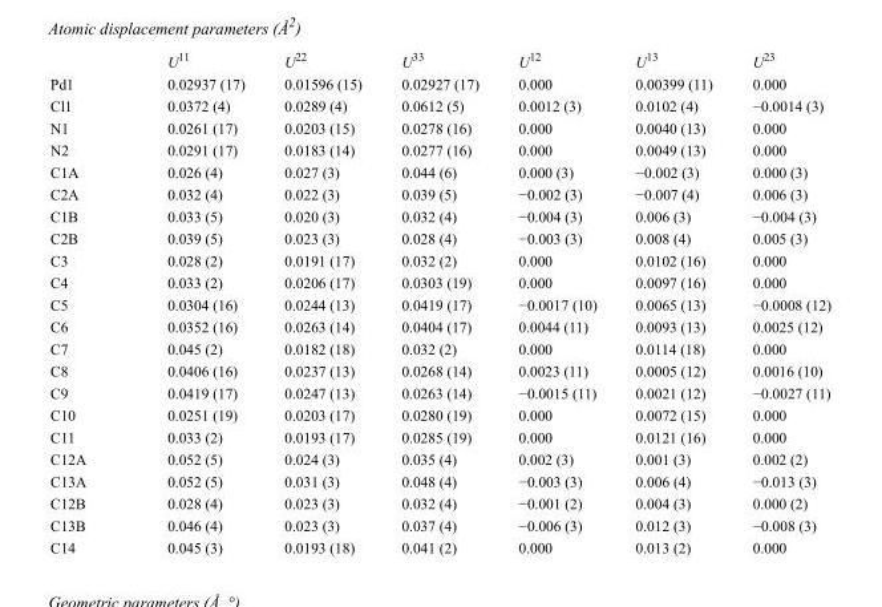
<table><thead><tr><td></td><td>U<sup>11</sup></td><td>U<sup>22</sup></td><td>U<sup>33</sup></td><td>U<sup>12</sup></td><td>U<sup>13</sup></td><td>U<sup>23</sup></td></tr></thead><tbody><tr><td>Pd1</td><td>0.02937 (17)</td><td>0.01596 (15)</td><td>0.02927 (17)</td><td>0.000</td><td>0.00399 (11)</td><td>0.000</td></tr><tr><td>Cl1</td><td>0.0372 (4)</td><td>0.0289 (4)</td><td>0.0612 (5)</td><td>0.0012 (3)</td><td>0.0102 (4)</td><td>−0.0014 (3)</td></tr><tr><td>N1</td><td>0.0261 (17)</td><td>0.0203 (15)</td><td>0.0278 (16)</td><td>0.000</td><td>0.0040 (13)</td><td>0.000</td></tr><tr><td>N2</td><td>0.0291 (17)</td><td>0.0183 (14)</td><td>0.0277 (16)</td><td>0.000</td><td>0.0049 (13)</td><td>0.000</td></tr><tr><td>C1A</td><td>0.026 (4)</td><td>0.027 (3)</td><td>0.044 (6)</td><td>0.000 (3)</td><td>−0.002 (3)</td><td>0.000 (3)</td></tr><tr><td>C2A</td><td>0.032 (4)</td><td>0.022 (3)</td><td>0.039 (5)</td><td>−0.002 (3)</td><td>−0.007 (4)</td><td>0.006 (3)</td></tr><tr><td>C1B</td><td>0.033 (5)</td><td>0.020 (3)</td><td>0.032 (4)</td><td>−0.004 (3)</td><td>0.006 (3)</td><td>−0.004 (3)</td></tr><tr><td>C2B</td><td>0.039 (5)</td><td>0.023 (3)</td><td>0.028 (4)</td><td>−0.003 (3)</td><td>0.008 (4)</td><td>0.005 (3)</td></tr><tr><td>C3</td><td>0.028 (2)</td><td>0.0191 (17)</td><td>0.032 (2)</td><td>0.000</td><td>0.0102 (16)</td><td>0.000</td></tr><tr><td>C4</td><td>0.033 (2)</td><td>0.0206 (17)</td><td>0.0303 (19)</td><td>0.000</td><td>0.0097 (16)</td><td>0.000</td></tr><tr><td>C5</td><td>0.0304 (16)</td><td>0.0244 (13)</td><td>0.0419 (17)</td><td>−0.0017 (10)</td><td>0.0065 (13)</td><td>−0.0008 (12)</td></tr><tr><td>C6</td><td>0.0352 (16)</td><td>0.0263 (14)</td><td>0.0404 (17)</td><td>0.0044 (11)</td><td>0.0093 (13)</td><td>0.0025 (12)</td></tr><tr><td>C7</td><td>0.045 (2)</td><td>0.0182 (18)</td><td>0.032 (2)</td><td>0.000</td><td>0.0114 (18)</td><td>0.000</td></tr><tr><td>C8</td><td>0.0406 (16)</td><td>0.0237 (13)</td><td>0.0268 (14)</td><td>0.0023 (11)</td><td>0.0005 (12)</td><td>0.0016 (10)</td></tr><tr><td>C9</td><td>0.0419 (17)</td><td>0.0247 (13)</td><td>0.0263 (14)</td><td>−0.0015 (11)</td><td>0.0021 (12)</td><td>−0.0027 (11)</td></tr><tr><td>C10</td><td>0.0251 (19)</td><td>0.0203 (17)</td><td>0.0280 (19)</td><td>0.000</td><td>0.0072 (15)</td><td>0.000</td></tr><tr><td>C11</td><td>0.033 (2)</td><td>0.0193 (17)</td><td>0.0285 (19)</td><td>0.000</td><td>0.0121 (16)</td><td>0.000</td></tr><tr><td>C12A</td><td>0.052 (5)</td><td>0.024 (3)</td><td>0.035 (4)</td><td>0.002 (3)</td><td>0.001 (3)</td><td>0.002 (2)</td></tr><tr><td>C13A</td><td>0.052 (5)</td><td>0.031 (3)</td><td>0.048 (4)</td><td>−0.003 (3)</td><td>0.006 (4)</td><td>−0.013 (3)</td></tr><tr><td>C12B</td><td>0.028 (4)</td><td>0.023 (3)</td><td>0.032 (4)</td><td>−0.001 (2)</td><td>0.004 (3)</td><td>0.000 (2)</td></tr><tr><td>C13B</td><td>0.046 (4)</td><td>0.023 (3)</td><td>0.037 (4)</td><td>−0.006 (3)</td><td>0.012 (3)</td><td>−0.008 (3)</td></tr><tr><td>C14</td><td>0.045 (3)</td><td>0.0193 (18)</td><td>0.041 (2)</td><td>0.000</td><td>0.013 (2)</td><td>0.000</td></tr></tbody></table>